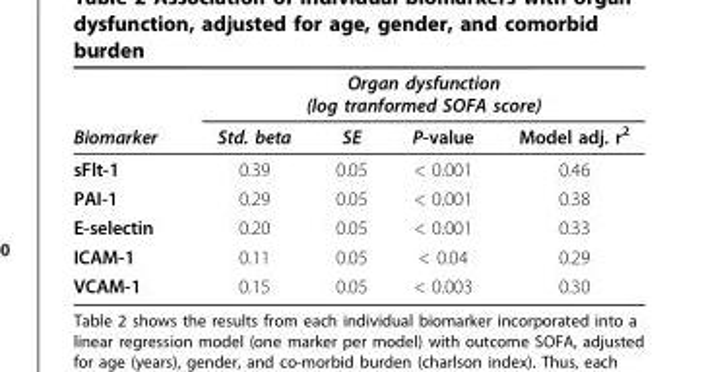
<table><thead><tr><td rowspan="2">Biomarker</td><td colspan="4">Organ dysfunction (log tranformed SOFA score)</td></tr><tr><td>Std. beta</td><td>SE</td><td>P-value</td><td>Model adj. r<sup>2</sup></td></tr></thead><tbody><tr><td>sFlt-1</td><td>0.39</td><td>0.05</td><td>&lt; 0.001</td><td>0.46</td></tr><tr><td>PAI-1</td><td>0.29</td><td>0.05</td><td>&lt; 0.001</td><td>0.38</td></tr><tr><td>E-selectin</td><td>0.20</td><td>0.05</td><td>&lt; 0.001</td><td>0.33</td></tr><tr><td>ICAM-1</td><td>0.11</td><td>0.05</td><td>&lt; 0.04</td><td>0.29</td></tr><tr><td>VCAM-1</td><td>0.15</td><td>0.05</td><td>&lt; 0.003</td><td>0.30</td></tr></tbody></table>